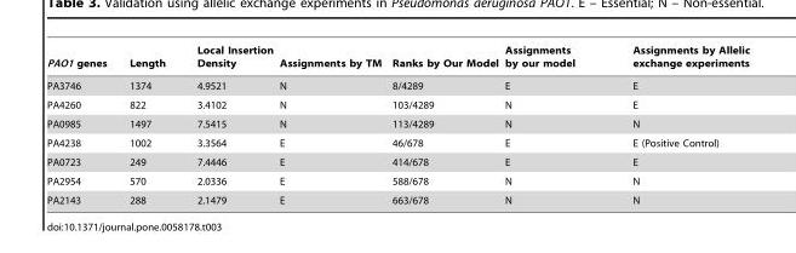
<table><thead><tr><td>PAO1 genes</td><td>Length</td><td>Local Insertion Density</td><td>Assignments by TM</td><td>Ranks by Our Model</td><td>Assignments by our model</td><td>Assignments by Allelic exchange experiments</td></tr></thead><tbody><tr><td>PA3746</td><td>1374</td><td>4.9521</td><td>N</td><td>8/4289</td><td>E</td><td>E</td></tr><tr><td>PA4260</td><td>822</td><td>3.4102</td><td>N</td><td>103/4289</td><td>N</td><td>E</td></tr><tr><td>PA0985</td><td>1497</td><td>7.5415</td><td>N</td><td>113/4289</td><td>N</td><td>N</td></tr><tr><td>PA4238</td><td>1002</td><td>3.3564</td><td>E</td><td>46/678</td><td>E</td><td>E (Positive Control)</td></tr><tr><td>PA0723</td><td>249</td><td>7.4446</td><td>E</td><td>414/678</td><td>E</td><td>E</td></tr><tr><td>PA2954</td><td>570</td><td>2.0336</td><td>E</td><td>588/678</td><td>N</td><td>N</td></tr><tr><td>PA2143</td><td>288</td><td>2.1479</td><td>E</td><td>663/678</td><td>N</td><td>N</td></tr></tbody></table>